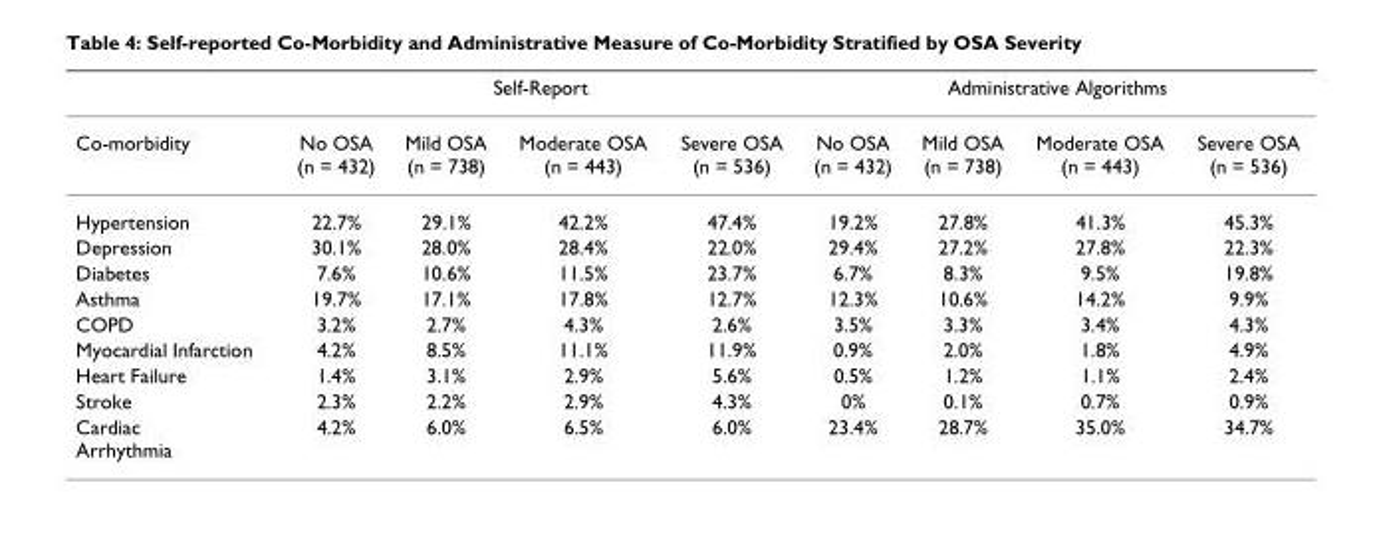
<table><thead><tr><td rowspan="2">Co-morbidity</td><td colspan="4">Self-Report</td><td colspan="4">Administrative Algorithms</td></tr><tr><td>No OSA (n = 432)</td><td>Mild OSA (n = 738)</td><td>Moderate OSA (n = 443)</td><td>Severe OSA (n = 536)</td><td>No OSA (n = 432)</td><td>Mild OSA (n = 738)</td><td>Moderate OSA (n = 443)</td><td>Severe OSA (n = 536)</td></tr></thead><tbody><tr><td>Hypertension</td><td>22.7%</td><td>29.1%</td><td>42.2%</td><td>47.4%</td><td>19.2%</td><td>27.8%</td><td>41.3%</td><td>45.3%</td></tr><tr><td>Depression</td><td>30.1%</td><td>28.0%</td><td>28.4%</td><td>22.0%</td><td>29.4%</td><td>27.2%</td><td>27.8%</td><td>22.3%</td></tr><tr><td>Diabetes</td><td>7.6%</td><td>10.6%</td><td>11.5%</td><td>23.7%</td><td>6.7%</td><td>8.3%</td><td>9.5%</td><td>19.8%</td></tr><tr><td>Asthma</td><td>19.7%</td><td>17.1%</td><td>17.8%</td><td>12.7%</td><td>12.3%</td><td>10.6%</td><td>14.2%</td><td>9.9%</td></tr><tr><td>COPD</td><td>3.2%</td><td>2.7%</td><td>4.3%</td><td>2.6%</td><td>3.5%</td><td>3.3%</td><td>3.4%</td><td>4.3%</td></tr><tr><td>Myocardial Infarction</td><td>4.2%</td><td>8.5%</td><td>11.1%</td><td>11.9%</td><td>0.9%</td><td>2.0%</td><td>1.8%</td><td>4.9%</td></tr><tr><td>Heart Failure</td><td>1.4%</td><td>3.1%</td><td>2.9%</td><td>5.6%</td><td>0.5%</td><td>1.2%</td><td>1.1%</td><td>2.4%</td></tr><tr><td>Stroke</td><td>2.3%</td><td>2.2%</td><td>2.9%</td><td>4.3%</td><td>0%</td><td>0.1%</td><td>0.7%</td><td>0.9%</td></tr><tr><td>Cardiac Arrhythmia</td><td>4.2%</td><td>6.0%</td><td>6.5%</td><td>6.0%</td><td>23.4%</td><td>28.7%</td><td>35.0%</td><td>34.7%</td></tr></tbody></table>